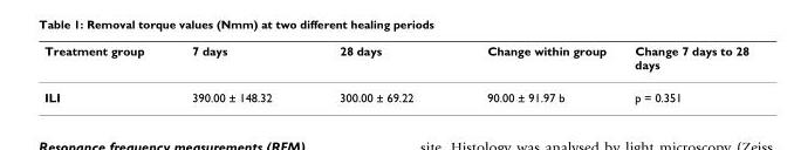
<table><thead><tr><td>Treatment group</td><td>7 days</td><td>28 days</td><td>Change within group</td><td>Change 7 days to 28 days</td></tr></thead><tbody><tr><td>ILI</td><td>390.00 ± 148.32</td><td>300.00 ± 69.22</td><td>90.00 ± 91.97 b</td><td>p = 0.351</td></tr></tbody></table>